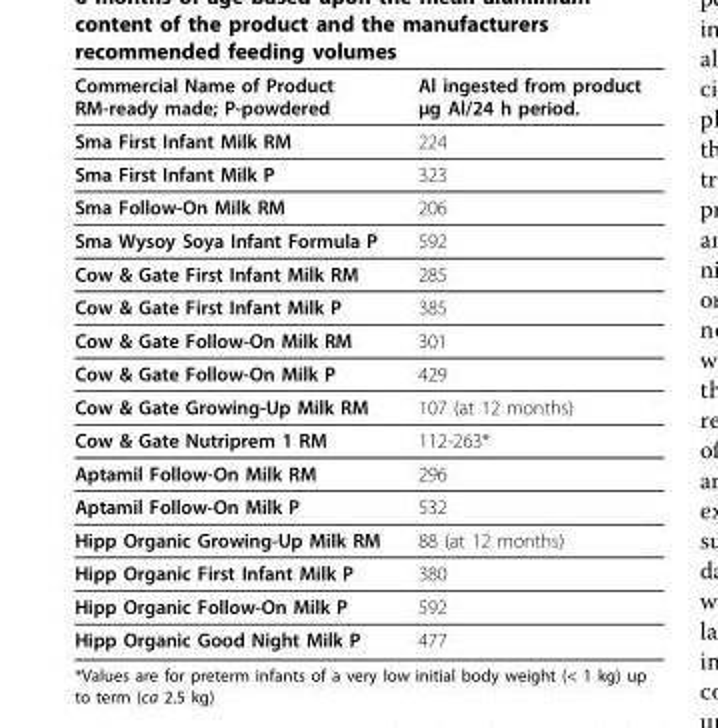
<table><thead><tr><td>Commercial Name of Product RM-ready made; P-powdered</td><td>Al ingested from product μg Al/24 h period.</td></tr></thead><tbody><tr><td>Sma First Infant Milk RM</td><td>224</td></tr><tr><td>Sma First Infant Milk P</td><td>323</td></tr><tr><td>Sma Follow-On Milk RM</td><td>206</td></tr><tr><td>Sma Wysoy Soya Infant Formula P</td><td>592</td></tr><tr><td>Cow &amp; Gate First Infant Milk RM</td><td>285</td></tr><tr><td>Cow &amp; Gate First Infant Milk P</td><td>385</td></tr><tr><td>Cow &amp; Gate Follow-On Milk RM</td><td>301</td></tr><tr><td>Cow &amp; Gate Follow-On Milk P</td><td>429</td></tr><tr><td>Cow &amp; Gate Growing-Up Milk RM</td><td>107 (at 12 months)</td></tr><tr><td>Cow &amp; Gate Nutriprem 1 RM</td><td>112-263*</td></tr><tr><td>Aptamil Follow-On Milk RM</td><td>296</td></tr><tr><td>Aptamil Follow-On Milk P</td><td>532</td></tr><tr><td>Hipp Organic Growing-Up Milk RM</td><td>88 (at 12 months)</td></tr><tr><td>Hipp Organic First Infant Milk P</td><td>380</td></tr><tr><td>Hipp Organic Follow-On Milk P</td><td>592</td></tr><tr><td>Hipp Organic Good Night Milk P</td><td>477</td></tr></tbody></table>